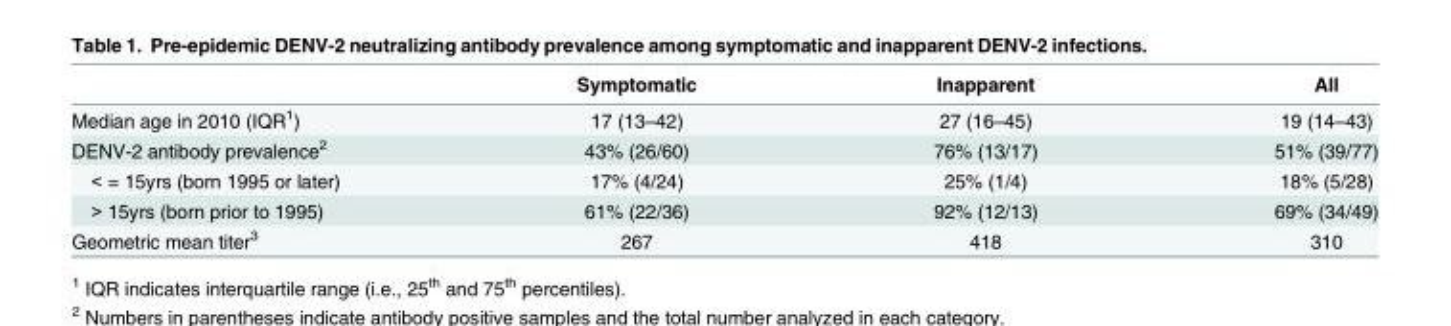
<table><thead><tr><td></td><td>Symptomatic</td><td>Inapparent</td><td>All</td></tr></thead><tbody><tr><td>Median age in 2010 (IQR<sup>1</sup>)</td><td>17 (13–42)</td><td>27 (16–45)</td><td>19 (14–43)</td></tr><tr><td>DENV-2 antibody prevalence<sup>2</sup></td><td>43% (26/60)</td><td>76% (13/17)</td><td>51% (39/77)</td></tr><tr><td>&lt; = 15yrs (born 1995 or later)</td><td>17% (4/24)</td><td>25% (1/4)</td><td>18% (5/28)</td></tr><tr><td>&gt; 15yrs (born prior to 1995)</td><td>61% (22/36)</td><td>92% (12/13)</td><td>69% (34/49)</td></tr><tr><td>Geometric mean titer<sup>3</sup></td><td>267</td><td>418</td><td>310</td></tr></tbody></table>